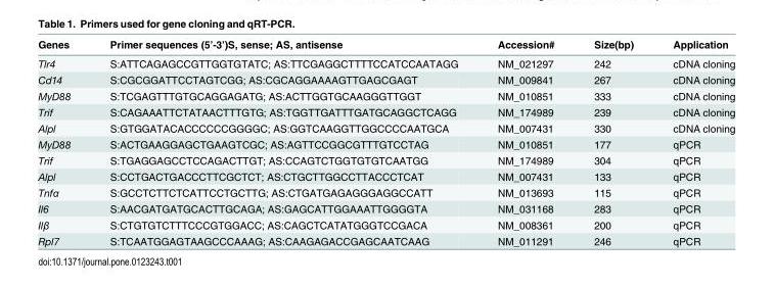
<table><thead><tr><td>Genes</td><td>Primer sequences (5’-3’)S, sense; AS, antisense</td><td>Accession#</td><td>Size(bp)</td><td>Application</td></tr></thead><tbody><tr><td>Tlr4</td><td>S:ATTCAGAGCCGTTGGTGTATC; AS:TTCGAGGCTTTTCCATCCAATAGG</td><td>NM_021297</td><td>242</td><td>cDNA cloning</td></tr><tr><td>Cd14</td><td>S:CGCGGATTCCTAGTCGG; AS:CGCAGGAAAAGTTGAGCGAGT</td><td>NM_009841</td><td>267</td><td>cDNA cloning</td></tr><tr><td>MyD88</td><td>S:TCGAGTTTGTGCAGGAGATG; AS:ACTTGGTGCAAGGGTTGGT</td><td>NM_010851</td><td>333</td><td>cDNA cloning</td></tr><tr><td>Trif</td><td>S:CAGAAATTCTATAACTTTGTG; AS:TGGTTGATTTGATGCAGGCTCAGG</td><td>NM_174989</td><td>239</td><td>cDNA cloning</td></tr><tr><td>Alpl</td><td>S:GTGGATACACCCCCCGGGGC; AS:GGTCAAGGTTGGCCCCAATGCA</td><td>NM_007431</td><td>330</td><td>cDNA cloning</td></tr><tr><td>MyD88</td><td>S:ACTGAAGGAGCTGAAGTCGC; AS:AGTTCCGGCGTTTGTCCTAG</td><td>NM_010851</td><td>177</td><td>qPCR</td></tr><tr><td>Trif</td><td>S:TGAGGAGCCTCCAGACTTGT; AS:CCAGTCTGGTGTGTCAATGG</td><td>NM_174989</td><td>304</td><td>qPCR</td></tr><tr><td>Alpl</td><td>S:CCTGACTGACCCTTCGCTCT; AS:CTGCTTGGCCTTACCCTCAT</td><td>NM_007431</td><td>133</td><td>qPCR</td></tr><tr><td>Tnfα</td><td>S:GCCTCTTCTCATTCCTGCTTG; AS:CTGATGAGAGGGAGGCCATT</td><td>NM_013693</td><td>115</td><td>qPCR</td></tr><tr><td>Il6</td><td>S:AACGATGATGCACTTGCAGA; AS:GAGCATTGGAAATTGGGGTA</td><td>NM_031168</td><td>283</td><td>qPCR</td></tr><tr><td>Ilβ</td><td>S:CTGTGTCTTTCCCGTGGACC; AS:CAGCTCATATGGGTCCGACA</td><td>NM_008361</td><td>200</td><td>qPCR</td></tr><tr><td>Rpl7</td><td>S:TCAATGGAGTAAGCCCAAAG; AS:CAAGAGACCGAGCAATCAAG</td><td>NM_011291</td><td>246</td><td>qPCR</td></tr></tbody></table>